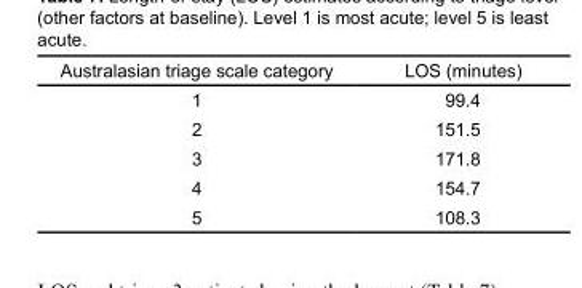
<table><thead><tr><td>Australasian triage scale category</td><td>LOS (minutes)</td></tr></thead><tbody><tr><td>1</td><td>99.4</td></tr><tr><td>2</td><td>151.5</td></tr><tr><td>3</td><td>171.8</td></tr><tr><td>4</td><td>154.7</td></tr><tr><td>5</td><td>108.3</td></tr></tbody></table>